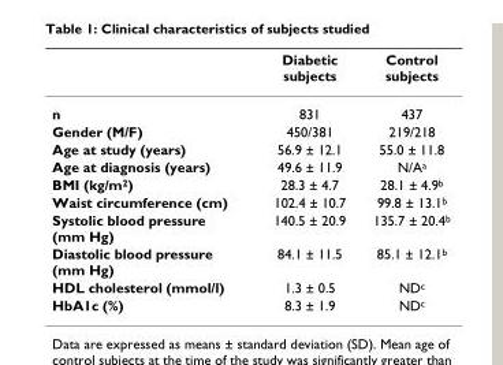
<table><thead><tr><td></td><td>Diabetic subjects</td><td>Control subjects</td></tr></thead><tbody><tr><td>n</td><td>831</td><td>437</td></tr><tr><td>Gender (M/F)</td><td>450/381</td><td>219/218</td></tr><tr><td>Age at study (years)</td><td>56.9 ± 12.1</td><td>55.0 ± 11.8</td></tr><tr><td>Age at diagnosis (years)</td><td>49.6 ± 11.9</td><td>N/A<sup>a</sup></td></tr><tr><td>BMI (kg/m<sup>2</sup>)</td><td>28.3 ± 4.7</td><td>28.1 ± 4.9<sup>b</sup></td></tr><tr><td>Waist circumference (cm)</td><td>102.4 ± 10.7</td><td>99.8 ± 13.1<sup>b</sup></td></tr><tr><td>Systolic blood pressure (mm Hg)</td><td>140.5 ± 20.9</td><td>135.7 ± 20.4<sup>b</sup></td></tr><tr><td>Diastolic blood pressure (mm Hg)</td><td>84.1 ± 11.5</td><td>85.1 ± 12.1<sup>b</sup></td></tr><tr><td>HDL cholesterol (mmol/l)</td><td>1.3 ± 0.5</td><td>ND<sup>c</sup></td></tr><tr><td>HbA1c (%)</td><td>8.3 ± 1.9</td><td>ND<sup>c</sup></td></tr></tbody></table>